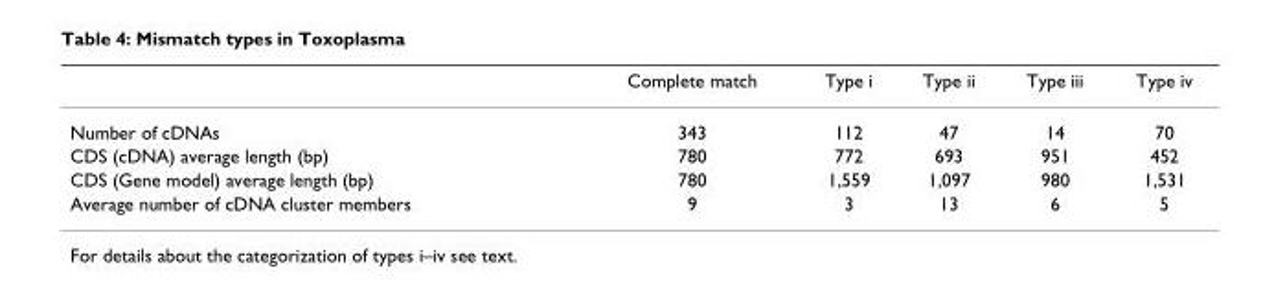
<table><thead><tr><td></td><td>Complete match</td><td>Type i</td><td>Type ii</td><td>Type iii</td><td>Type iv</td></tr></thead><tbody><tr><td>Number of cDNAs</td><td>343</td><td>112</td><td>47</td><td>14</td><td>70</td></tr><tr><td>CDS (cDNA) average length (bp)</td><td>780</td><td>772</td><td>693</td><td>951</td><td>452</td></tr><tr><td>CDS (Gene model) average length (bp)</td><td>780</td><td>1,559</td><td>1,097</td><td>980</td><td>1,531</td></tr><tr><td>Average number of cDNA cluster members</td><td>9</td><td>3</td><td>13</td><td>6</td><td>5</td></tr></tbody></table>